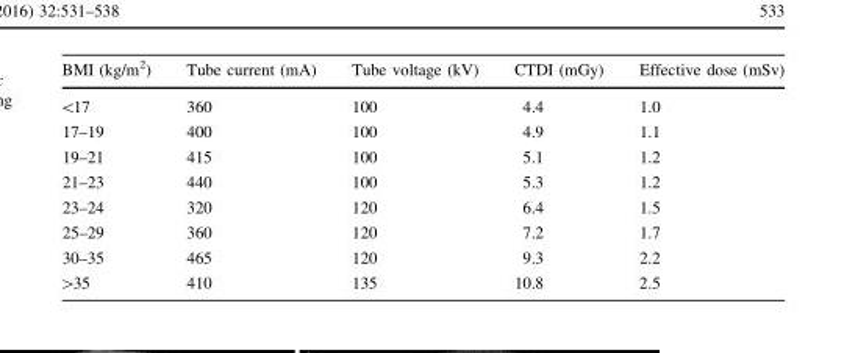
<table><thead><tr><td>BMI (kg/m<sup>2</sup>)</td><td>Tube current (mA)</td><td>Tube voltage (kV)</td><td>CTDI (mGy)</td><td>Effective dose (mSv)</td></tr></thead><tbody><tr><td>&lt;17</td><td>360</td><td>100</td><td>4.4</td><td>1.0</td></tr><tr><td>17–19</td><td>400</td><td>100</td><td>4.9</td><td>1.1</td></tr><tr><td>19–21</td><td>415</td><td>100</td><td>5.1</td><td>1.2</td></tr><tr><td>21–23</td><td>440</td><td>100</td><td>5.3</td><td>1.2</td></tr><tr><td>23–24</td><td>320</td><td>120</td><td>6.4</td><td>1.5</td></tr><tr><td>25–29</td><td>360</td><td>120</td><td>7.2</td><td>1.7</td></tr><tr><td>30–35</td><td>465</td><td>120</td><td>9.3</td><td>2.2</td></tr><tr><td>&gt;35</td><td>410</td><td>135</td><td>10.8</td><td>2.5</td></tr></tbody></table>